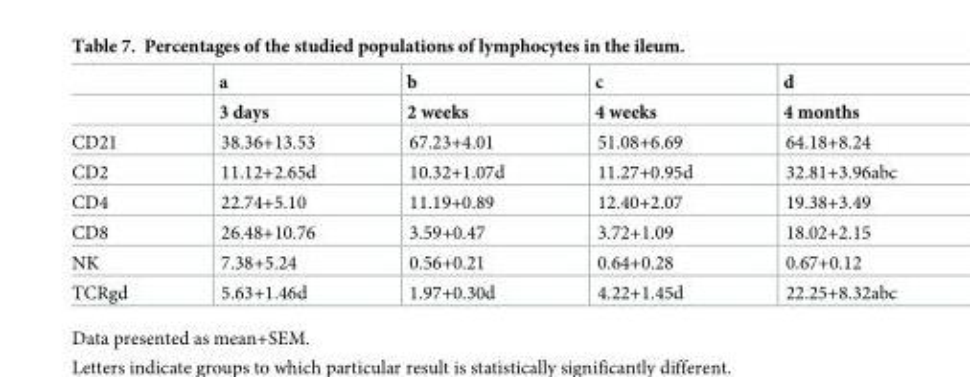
<table><thead><tr><td rowspan="2"></td><td rowspan="2">a 3 days</td><td rowspan="2">b 2 weeks</td><td rowspan="2">c 4 weeks</td><td rowspan="2">d 4 months</td></tr><tr></tr></thead><tbody><tr><td>CD21</td><td>38.36+13.53</td><td>67.23+4.01</td><td>51.08+6.69</td><td>64.18+8.24</td></tr><tr><td>CD2</td><td>11.12+2.65d</td><td>10.32+1.07d</td><td>11.27+0.95d</td><td>32.81+3.96abc</td></tr><tr><td>CD4</td><td>22.74+5.10</td><td>11.19+0.89</td><td>12.40+2.07</td><td>19.38+3.49</td></tr><tr><td>CD8</td><td>26.48+10.76</td><td>3.59+0.47</td><td>3.72+1.09</td><td>18.02+2.15</td></tr><tr><td>NK</td><td>7.38+5.24</td><td>0.56+0.21</td><td>0.64+0.28</td><td>0.67+0.12</td></tr><tr><td>TCRgd</td><td>5.63+1.46d</td><td>1.97+0.30d</td><td>4.22+1.45d</td><td>22.25+8.32abc</td></tr></tbody></table>